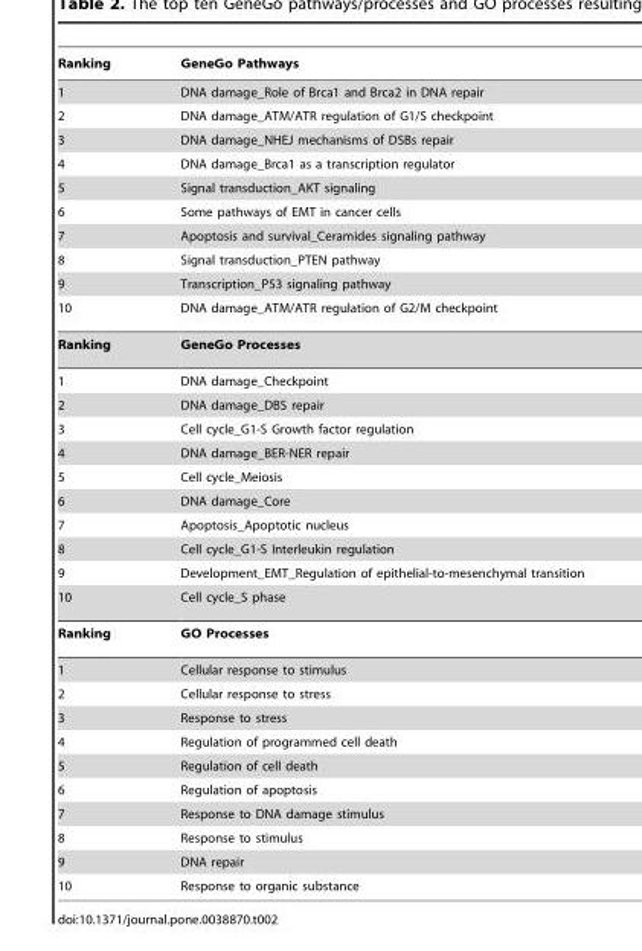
<table><thead><tr><td>Ranking</td><td>GeneGo Pathways</td></tr></thead><tbody><tr><td>1</td><td>DNA damage_Role of Brca1 and Brca2 in DNA repair</td></tr><tr><td>2</td><td>DNA damage_ATM/ATR regulation of G1/S checkpoint</td></tr><tr><td>3</td><td>DNA damage_NHEJ mechanisms of DSBs repair</td></tr><tr><td>4</td><td>DNA damage_Brca1 as a transcription regulator</td></tr><tr><td>5</td><td>Signal transduction_AKT signaling</td></tr><tr><td>6</td><td>Some pathways of EMT in cancer cells</td></tr><tr><td>7</td><td>Apoptosis and survival_Ceramides signaling pathway</td></tr><tr><td>8</td><td>Signal transduction_PTEN pathway</td></tr><tr><td>9</td><td>Transcription_P53 signaling pathway</td></tr><tr><td>10</td><td>DNA damage_ATM/ATR regulation of G2/M checkpoint</td></tr><tr><td>Ranking</td><td>GeneGo Processes</td></tr><tr><td>1</td><td>DNA damage_Checkpoint</td></tr><tr><td>2</td><td>DNA damage_DBS repair</td></tr><tr><td>3</td><td>Cell cycle_G1-S Growth factor regulation</td></tr><tr><td>4</td><td>DNA damage_BER-NER repair</td></tr><tr><td>5</td><td>Cell cycle_Meiosis</td></tr><tr><td>6</td><td>DNA damage_Core</td></tr><tr><td>7</td><td>Apoptosis_Apoptotic nucleus</td></tr><tr><td>8</td><td>Cell cycle_G1-S Interleukin regulation</td></tr><tr><td>9</td><td>Development_EMT_Regulation of epithelial-to-mesenchymal transition</td></tr><tr><td>10</td><td>Cell cycle_S phase</td></tr><tr><td>Ranking</td><td>GO Processes</td></tr><tr><td>1</td><td>Cellular response to stimulus</td></tr><tr><td>2</td><td>Cellular response to stress</td></tr><tr><td>3</td><td>Response to stress</td></tr><tr><td>4</td><td>Regulation of programmed cell death</td></tr><tr><td>5</td><td>Regulation of cell death</td></tr><tr><td>6</td><td>Regulation of apoptosis</td></tr><tr><td>7</td><td>Response to DNA damage stimulus</td></tr><tr><td>8</td><td>Response to stimulus</td></tr><tr><td>9</td><td>DNA repair</td></tr><tr><td>10</td><td>Response to organic substance</td></tr></tbody></table>